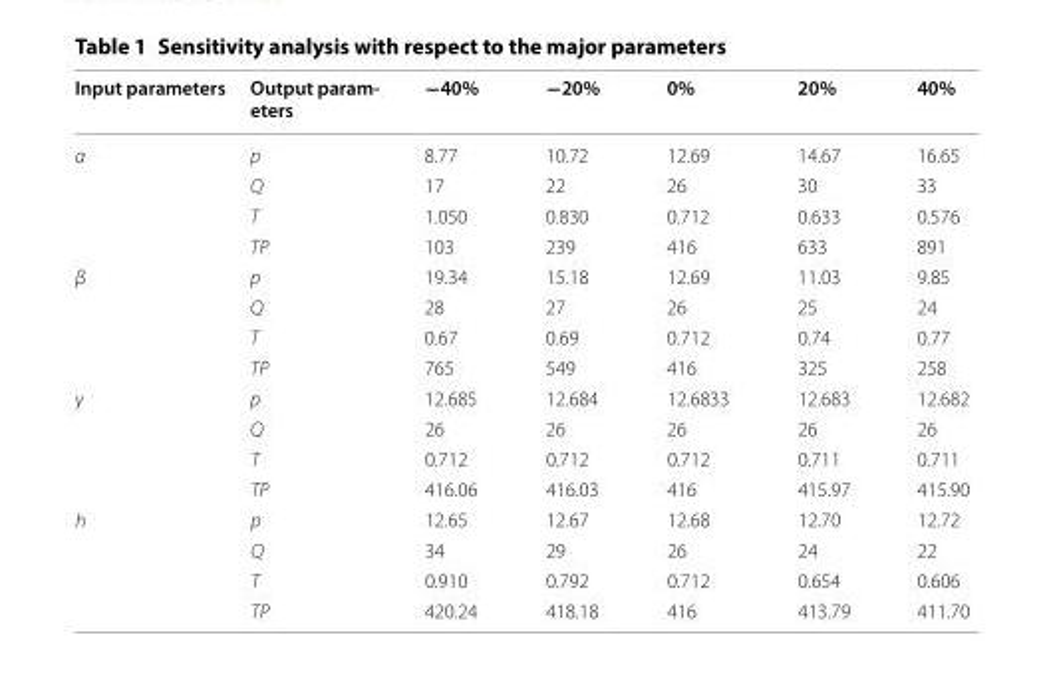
<table><thead><tr><td>Input parameters</td><td>Output param- eters</td><td>−40%</td><td>−20%</td><td>0%</td><td>20%</td><td>40%</td></tr></thead><tbody><tr><td rowspan="4">α</td><td>p</td><td>8.77</td><td>10.72</td><td>12.69</td><td>14.67</td><td>16.65</td></tr><tr><td>Q</td><td>17</td><td>22</td><td>26</td><td>30</td><td>33</td></tr><tr><td>T</td><td>1.050</td><td>0.830</td><td>0.712</td><td>0.633</td><td>0.576</td></tr><tr><td>TP</td><td>103</td><td>239</td><td>416</td><td>633</td><td>891</td></tr><tr><td rowspan="4">β</td><td>p</td><td>19.34</td><td>15.18</td><td>12.69</td><td>11.03</td><td>9.85</td></tr><tr><td>Q</td><td>28</td><td>27</td><td>26</td><td>25</td><td>24</td></tr><tr><td>T</td><td>0.67</td><td>0.69</td><td>0.712</td><td>0.74</td><td>0.77</td></tr><tr><td>TP</td><td>765</td><td>549</td><td>416</td><td>325</td><td>258</td></tr><tr><td rowspan="4">γ</td><td>p</td><td>12.685</td><td>12.684</td><td>12.6833</td><td>12.683</td><td>12.682</td></tr><tr><td>Q</td><td>26</td><td>26</td><td>26</td><td>26</td><td>26</td></tr><tr><td>T</td><td>0.712</td><td>0.712</td><td>0.712</td><td>0.711</td><td>0.711</td></tr><tr><td>TP</td><td>416.06</td><td>416.03</td><td>416</td><td>415.97</td><td>415.90</td></tr><tr><td rowspan="4">h</td><td>p</td><td>12.65</td><td>12.67</td><td>12.68</td><td>12.70</td><td>12.72</td></tr><tr><td>Q</td><td>34</td><td>29</td><td>26</td><td>24</td><td>22</td></tr><tr><td>T</td><td>0.910</td><td>0.792</td><td>0.712</td><td>0.654</td><td>0.606</td></tr><tr><td>TP</td><td>420.24</td><td>418.18</td><td>416</td><td>413.79</td><td>411.70</td></tr></tbody></table>